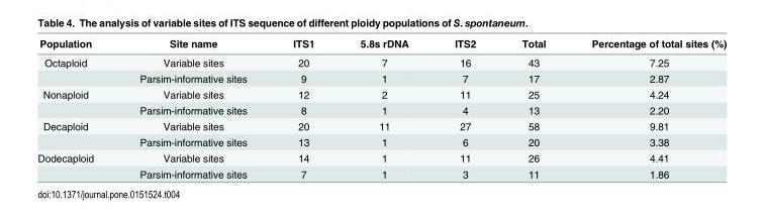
<table><thead><tr><td>Population</td><td>Site name</td><td>ITS1</td><td>5.8s rDNA</td><td>ITS2</td><td>Total</td><td>Percentage of total sites (%)</td></tr></thead><tbody><tr><td rowspan="2">Octaploid</td><td>Variable sites</td><td>20</td><td>7</td><td>16</td><td>43</td><td>7.25</td></tr><tr><td>Parsim-informative sites</td><td>9</td><td>1</td><td>7</td><td>17</td><td>2.87</td></tr><tr><td rowspan="2">Nonaploid</td><td>Variable sites</td><td>12</td><td>2</td><td>11</td><td>25</td><td>4.24</td></tr><tr><td>Parsim-informative sites</td><td>8</td><td>1</td><td>4</td><td>13</td><td>2.20</td></tr><tr><td rowspan="2">Decaploid</td><td>Variable sites</td><td>20</td><td>11</td><td>27</td><td>58</td><td>9.81</td></tr><tr><td>Parsim-informative sites</td><td>13</td><td>1</td><td>6</td><td>20</td><td>3.38</td></tr><tr><td rowspan="2">Dodecaploid</td><td>Variable sites</td><td>14</td><td>1</td><td>11</td><td>26</td><td>4.41</td></tr><tr><td>Parsim-informative sites</td><td>7</td><td>1</td><td>3</td><td>11</td><td>1.86</td></tr></tbody></table>